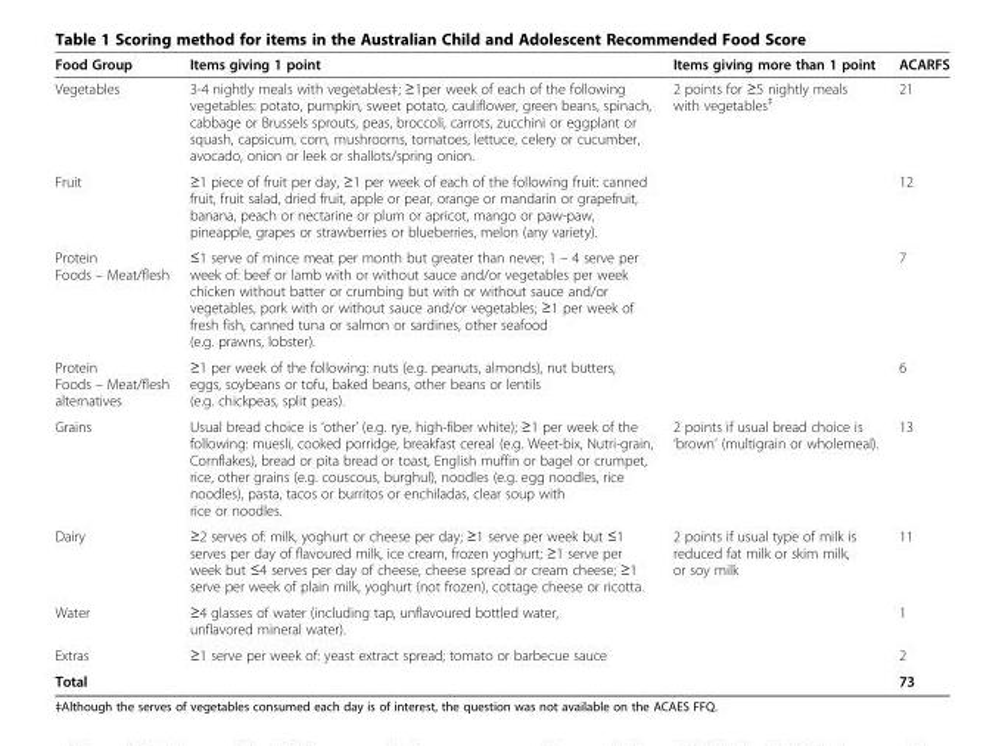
<table><thead><tr><td>Food Group</td><td>Items giving 1 point</td><td>Items giving more than 1 point</td><td>ACARFS</td></tr></thead><tbody><tr><td>Vegetables</td><td>3-4 nightly meals with vegetables‡; ≥1per week of each of the following vegetables: potato, pumpkin, sweet potato, cauliflower, green beans, spinach, cabbage or Brussels sprouts, peas, broccoli, carrots, zucchini or eggplant or squash, capsicum, corn, mushrooms, tomatoes, lettuce, celery or cucumber, avocado, onion or leek or shallots/spring onion.</td><td>2 points for ≥5 nightly meals with vegetables<sup>‡</sup></td><td>21</td></tr><tr><td>Fruit</td><td>≥1 piece of fruit per day, ≥1 per week of each of the following fruit: canned fruit, fruit salad, dried fruit, apple or pear, orange or mandarin or grapefruit, banana, peach or nectarine or plum or apricot, mango or paw-paw, pineapple, grapes or strawberries or blueberries, melon (any variety).</td><td></td><td>12</td></tr><tr><td>Protein Foods – Meat/flesh</td><td>≤1 serve of mince meat per month but greater than never; 1 – 4 serve per week of: beef or lamb with or without sauce and/or vegetables per week chicken without batter or crumbing but with or without sauce and/or vegetables, pork with or without sauce and/or vegetables; ≥1 per week of fresh fish, canned tuna or salmon or sardines, other seafood (e.g. prawns, lobster).</td><td></td><td>7</td></tr><tr><td>Protein Foods – Meat/flesh alternatives</td><td>≥1 per week of the following: nuts (e.g. peanuts, almonds), nut butters, eggs, soybeans or tofu, baked beans, other beans or lentils (e.g. chickpeas, split peas).</td><td></td><td>6</td></tr><tr><td>Grains</td><td>Usual bread choice is ‘other’ (e.g. rye, high-fiber white); ≥1 per week of the following: muesli, cooked porridge, breakfast cereal (e.g. Weet-bix, Nutri-grain, Cornflakes), bread or pita bread or toast, English muffin or bagel or crumpet, rice, other grains (e.g. couscous, burghul), noodles (e.g. egg noodles, rice noodles), pasta, tacos or burritos or enchiladas, clear soup with rice or noodles.</td><td>2 points if usual bread choice is ‘brown’ (multigrain or wholemeal).</td><td>13</td></tr><tr><td>Dairy</td><td>≥2 serves of: milk, yoghurt or cheese per day; ≥1 serve per week but ≤1 serves per day of flavoured milk, ice cream, frozen yoghurt; ≥1 serve per week but ≤4 serves per day of cheese, cheese spread or cream cheese; ≥1 serve per week of plain milk, yoghurt (not frozen), cottage cheese or ricotta.</td><td>2 points if usual type of milk is reduced fat milk or skim milk, or soy milk</td><td>11</td></tr><tr><td>Water</td><td>≥4 glasses of water (including tap, unflavoured bottled water, unflavored mineral water).</td><td></td><td>1</td></tr><tr><td>Extras</td><td>≥1 serve per week of: yeast extract spread; tomato or barbecue sauce</td><td></td><td>2</td></tr><tr><td>Total</td><td></td><td></td><td>73</td></tr></tbody></table>